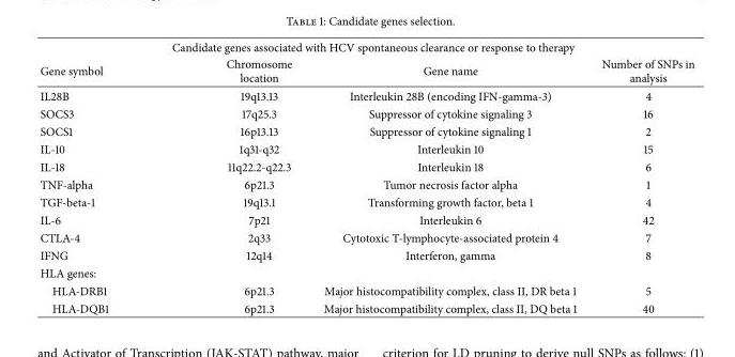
<table><thead><tr><td colspan="4">Candidate genes associated with HCV spontaneous clearance or response to therapy</td></tr><tr><td>Gene symbol</td><td>Chromosome location</td><td>Gene name</td><td>Number of SNPs in analysis</td></tr></thead><tbody><tr><td>IL28B</td><td>19q13.13</td><td>Interleukin 28B (encoding IFN-gamma-3)</td><td>4</td></tr><tr><td>SOCS3</td><td>17q25.3</td><td>Suppressor of cytokine signaling 3</td><td>16</td></tr><tr><td>SOCS1</td><td>16p13.13</td><td>Suppressor of cytokine signaling 1</td><td>2</td></tr><tr><td>IL-10</td><td>1q31-q32</td><td>Interleukin 10</td><td>15</td></tr><tr><td>IL-18</td><td>11q22.2-q22.3</td><td>Interleukin 18</td><td>6</td></tr><tr><td>TNF-alpha</td><td>6p21.3</td><td>Tumor necrosis factor alpha</td><td>1</td></tr><tr><td>TGF-beta-1</td><td>19q13.1</td><td>Transforming growth factor, beta 1</td><td>4</td></tr><tr><td>IL-6</td><td>7p21</td><td>Interleukin 6</td><td>42</td></tr><tr><td>CTLA-4</td><td>2q33</td><td>Cytotoxic T-lymphocyte-associated protein 4</td><td>7</td></tr><tr><td>IFNG</td><td>12q14</td><td>Interferon, gamma</td><td>8</td></tr><tr><td colspan="4">HLA genes:</td></tr><tr><td>HLA-DRB1</td><td>6p21.3</td><td>Major histocompatibility complex, class II, DR beta 1</td><td>5</td></tr><tr><td>HLA-DQB1</td><td>6p21.3</td><td>Major histocompatibility complex, class II, DQ beta 1</td><td>40</td></tr></tbody></table>